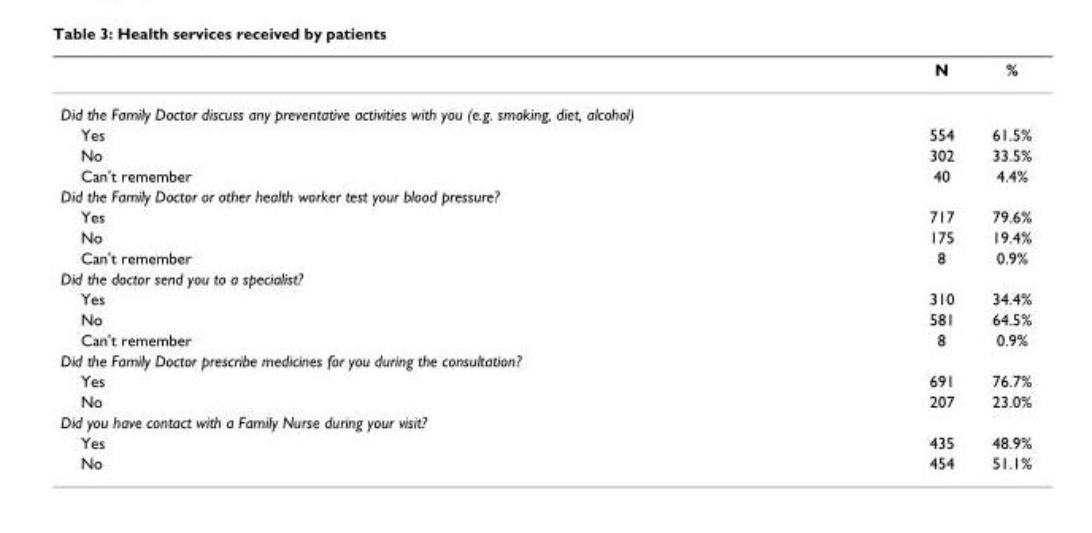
<table><thead><tr><td></td><td>N</td><td>%</td></tr></thead><tbody><tr><td colspan="3">Did the Family Doctor discuss any preventative activities with you (e.g. smoking, diet, alcohol)</td></tr><tr><td>Yes</td><td>554</td><td>61.5%</td></tr><tr><td>No</td><td>302</td><td>33.5%</td></tr><tr><td>Can&#x27;t remember</td><td>40</td><td>4.4%</td></tr><tr><td colspan="3">Did the Family Doctor or other health worker test your blood pressure?</td></tr><tr><td>Yes</td><td>717</td><td>79.6%</td></tr><tr><td>No</td><td>175</td><td>19.4%</td></tr><tr><td>Can&#x27;t remember</td><td>8</td><td>0.9%</td></tr><tr><td colspan="3">Did the doctor send you to a specialist?</td></tr><tr><td>Yes</td><td>310</td><td>34.4%</td></tr><tr><td>No</td><td>581</td><td>64.5%</td></tr><tr><td>Can&#x27;t remember</td><td>8</td><td>0.9%</td></tr><tr><td colspan="3">Did the Family Doctor prescribe medicines for you during the consultation?</td></tr><tr><td>Yes</td><td>691</td><td>76.7%</td></tr><tr><td>No</td><td>207</td><td>23.0%</td></tr><tr><td colspan="3">Did you have contact with a Family Nurse during your visit?</td></tr><tr><td>Yes</td><td>435</td><td>48.9%</td></tr><tr><td>No</td><td>454</td><td>51.1%</td></tr></tbody></table>